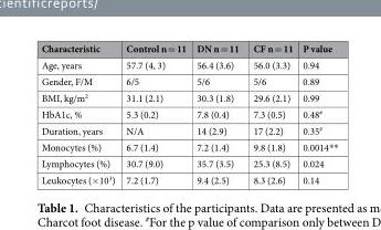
<table><thead><tr><td>Characteristic</td><td>Control n = 11</td><td>DN n = 11</td><td>CF n = 11</td><td>P value</td></tr></thead><tbody><tr><td>Age, years</td><td>57.7 (4, 3)</td><td>56.4 (3.6)</td><td>56.0 (3.3)</td><td>0.94</td></tr><tr><td>Gender, F/M</td><td>6/5</td><td>5/6</td><td>5/6</td><td>0.89</td></tr><tr><td>BMI, kg/m<sup>2</sup></td><td>31.1 (2.1)</td><td>30.3 (1.8)</td><td>29.6 (2.1)</td><td>0.99</td></tr><tr><td>HbA1c, %</td><td>5.3 (0.2)</td><td>7.8 (0.4)</td><td>7.3 (0.5)</td><td>0.48<sup>#</sup></td></tr><tr><td>Duration, years</td><td>N/A</td><td>14 (2.9)</td><td>17 (2.2)</td><td>0.35<sup>#</sup></td></tr><tr><td>Monocytes (%)</td><td>6.7 (1.4)</td><td>7.2 (1.4)</td><td>9.8 (1.8)</td><td>0.0014**</td></tr><tr><td>Lymphocytes (%)</td><td>30.7 (9.0)</td><td>35.7 (3.5)</td><td>25.3 (8.5)</td><td>0.024</td></tr><tr><td>Leukocytes (×10<sup>3</sup>)</td><td>7.2 (1.7)</td><td>9.4 (2.5)</td><td>8.3 (2.6)</td><td>0.14</td></tr></tbody></table>